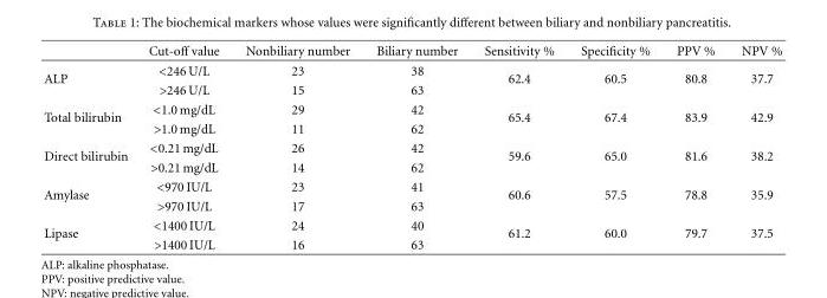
<table><thead><tr><td></td><td>Cut-off value</td><td>Nonbiliary number</td><td>Biliary number</td><td>Sensitivity %</td><td>Specificity %</td><td>PPV %</td><td>NPV %</td></tr></thead><tbody><tr><td rowspan="2">ALP</td><td>&lt;246 U/L</td><td>23</td><td>38</td><td rowspan="2">62.4</td><td rowspan="2">60.5</td><td rowspan="2">80.8</td><td rowspan="2">37.7</td></tr><tr><td>&gt;246 U/L</td><td>15</td><td>63</td></tr><tr><td rowspan="2">Total bilirubin</td><td>&lt;1.0 mg/dL</td><td>29</td><td>42</td><td rowspan="2">65.4</td><td rowspan="2">67.4</td><td rowspan="2">83.9</td><td rowspan="2">42.9</td></tr><tr><td>&gt;1.0 mg/dL</td><td>11</td><td>62</td></tr><tr><td rowspan="2">Direct bilirubin</td><td>&lt;0.21 mg/dL</td><td>26</td><td>42</td><td rowspan="2">59.6</td><td rowspan="2">65.0</td><td rowspan="2">81.6</td><td rowspan="2">38.2</td></tr><tr><td>&gt;0.21 mg/dL</td><td>14</td><td>62</td></tr><tr><td rowspan="2">Amylase</td><td>&lt;970 IU/L</td><td>23</td><td>41</td><td rowspan="2">60.6</td><td rowspan="2">57.5</td><td rowspan="2">78.8</td><td rowspan="2">35.9</td></tr><tr><td>&gt;970 IU/L</td><td>17</td><td>63</td></tr><tr><td rowspan="2">Lipase</td><td>&lt;1400 IU/L</td><td>24</td><td>40</td><td rowspan="2">61.2</td><td rowspan="2">60.0</td><td rowspan="2">79.7</td><td rowspan="2">37.5</td></tr><tr><td>&gt;1400 IU/L</td><td>16</td><td>63</td></tr></tbody></table>